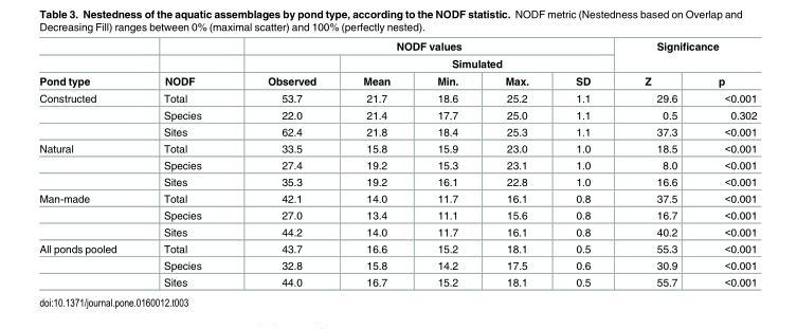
<table><thead><tr><td rowspan="3">Pond type</td><td rowspan="3">NODF</td><td colspan="5">NODF values</td><td rowspan="2" colspan="2">Significance</td></tr><tr><td rowspan="2">Observed</td><td colspan="4">Simulated</td></tr><tr><td>Mean</td><td>Min.</td><td>Max.</td><td>SD</td><td>Z</td><td>p</td></tr></thead><tbody><tr><td rowspan="3">Constructed</td><td>Total</td><td>53.7</td><td>21.7</td><td>18.6</td><td>25.2</td><td>1.1</td><td>29.6</td><td>&lt;0.001</td></tr><tr><td>Species</td><td>22.0</td><td>21.4</td><td>17.7</td><td>25.0</td><td>1.1</td><td>0.5</td><td>0.302</td></tr><tr><td>Sites</td><td>62.4</td><td>21.8</td><td>18.4</td><td>25.3</td><td>1.1</td><td>37.3</td><td>&lt;0.001</td></tr><tr><td rowspan="3">Natural</td><td>Total</td><td>33.5</td><td>15.8</td><td>15.9</td><td>23.0</td><td>1.0</td><td>18.5</td><td>&lt;0.001</td></tr><tr><td>Species</td><td>27.4</td><td>19.2</td><td>15.3</td><td>23.1</td><td>1.0</td><td>8.0</td><td>&lt;0.001</td></tr><tr><td>Sites</td><td>35.3</td><td>19.2</td><td>16.1</td><td>22.8</td><td>1.0</td><td>16.6</td><td>&lt;0.001</td></tr><tr><td rowspan="3">Man-made</td><td>Total</td><td>42.1</td><td>14.0</td><td>11.7</td><td>16.1</td><td>0.8</td><td>37.5</td><td>&lt;0.001</td></tr><tr><td>Species</td><td>27.0</td><td>13.4</td><td>11.1</td><td>15.6</td><td>0.8</td><td>16.7</td><td>&lt;0.001</td></tr><tr><td>Sites</td><td>44.2</td><td>14.0</td><td>11.7</td><td>16.1</td><td>0.8</td><td>40.2</td><td>&lt;0.001</td></tr><tr><td rowspan="3">All ponds pooled</td><td>Total</td><td>43.7</td><td>16.6</td><td>15.2</td><td>18.1</td><td>0.5</td><td>55.3</td><td>&lt;0.001</td></tr><tr><td>Species</td><td>32.8</td><td>15.8</td><td>14.2</td><td>17.5</td><td>0.6</td><td>30.9</td><td>&lt;0.001</td></tr><tr><td>Sites</td><td>44.0</td><td>16.7</td><td>15.2</td><td>18.1</td><td>0.5</td><td>55.7</td><td>&lt;0.001</td></tr></tbody></table>